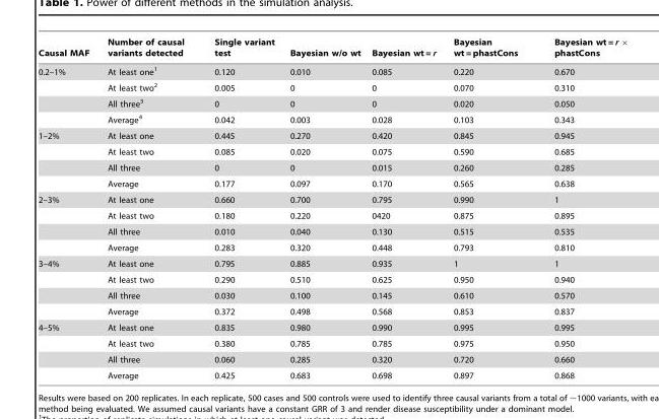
<table><thead><tr><td>Causal MAF</td><td>Number of causal variants detected</td><td>Single variant test</td><td>Bayesian w/o wt</td><td>Bayesian wt = r</td><td>Bayesian wt = phastCons</td><td>Bayesian wt = r phastCons</td></tr></thead><tbody><tr><td rowspan="4">0.2–1%</td><td>At least one<sup>1</sup></td><td>0.120</td><td>0.010</td><td>0.085</td><td>0.220</td><td>0.670</td></tr><tr><td>At least two<sup>2</sup></td><td>0.005</td><td>0</td><td>0</td><td>0.070</td><td>0.310</td></tr><tr><td>All three<sup>3</sup></td><td>0</td><td>0</td><td>0</td><td>0.020</td><td>0.050</td></tr><tr><td>Average<sup>4</sup></td><td>0.042</td><td>0.003</td><td>0.028</td><td>0.103</td><td>0.343</td></tr><tr><td rowspan="4">1–2%</td><td>At least one</td><td>0.445</td><td>0.270</td><td>0.420</td><td>0.845</td><td>0.945</td></tr><tr><td>At least two</td><td>0.085</td><td>0.020</td><td>0.075</td><td>0.590</td><td>0.685</td></tr><tr><td>All three</td><td>0</td><td>0</td><td>0.015</td><td>0.260</td><td>0.285</td></tr><tr><td>Average</td><td>0.177</td><td>0.097</td><td>0.170</td><td>0.565</td><td>0.638</td></tr><tr><td rowspan="4">2–3%</td><td>At least one</td><td>0.660</td><td>0.700</td><td>0.795</td><td>0.990</td><td>1</td></tr><tr><td>At least two</td><td>0.180</td><td>0.220</td><td>0420</td><td>0.875</td><td>0.895</td></tr><tr><td>All three</td><td>0.010</td><td>0.040</td><td>0.130</td><td>0.515</td><td>0.535</td></tr><tr><td>Average</td><td>0.283</td><td>0.320</td><td>0.448</td><td>0.793</td><td>0.810</td></tr><tr><td rowspan="4">3–4%</td><td>At least one</td><td>0.795</td><td>0.885</td><td>0.935</td><td>1</td><td>1</td></tr><tr><td>At least two</td><td>0.290</td><td>0.510</td><td>0.625</td><td>0.950</td><td>0.940</td></tr><tr><td>All three</td><td>0.030</td><td>0.100</td><td>0.145</td><td>0.610</td><td>0.570</td></tr><tr><td>Average</td><td>0.372</td><td>0.498</td><td>0.568</td><td>0.853</td><td>0.837</td></tr><tr><td rowspan="4">4–5%</td><td>At least one</td><td>0.835</td><td>0.980</td><td>0.990</td><td>0.995</td><td>0.995</td></tr><tr><td>At least two</td><td>0.380</td><td>0.785</td><td>0.785</td><td>0.975</td><td>0.950</td></tr><tr><td>All three</td><td>0.060</td><td>0.285</td><td>0.320</td><td>0.720</td><td>0.660</td></tr><tr><td>Average</td><td>0.425</td><td>0.683</td><td>0.698</td><td>0.897</td><td>0.868</td></tr></tbody></table>